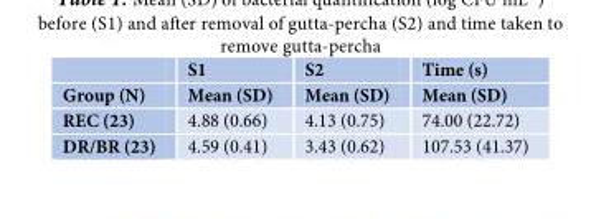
<table><thead><tr><td rowspan="2">Group (N)</td><td rowspan="2">S1 Mean (SD)</td><td rowspan="2">S2 Mean (SD)</td><td rowspan="2">Time (s) Mean (SD)</td></tr><tr></tr></thead><tbody><tr><td>REC (23)</td><td>4.88 (0.66)</td><td>4.13 (0.75)</td><td>74.00 (22.72)</td></tr><tr><td>DR/BR (23)</td><td>4.59 (0.41)</td><td>3.43 (0.62)</td><td>107.53 (41.37)</td></tr></tbody></table>